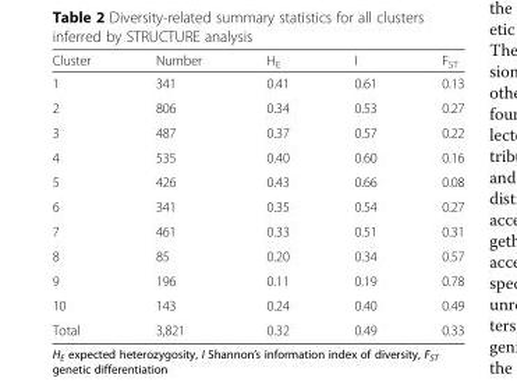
<table><thead><tr><td>Cluster</td><td>Number</td><td>H<sub>E</sub></td><td>I</td><td>F<sub>ST</sub></td></tr></thead><tbody><tr><td>1</td><td>341</td><td>0.41</td><td>0.61</td><td>0.13</td></tr><tr><td>2</td><td>806</td><td>0.34</td><td>0.53</td><td>0.27</td></tr><tr><td>3</td><td>487</td><td>0.37</td><td>0.57</td><td>0.22</td></tr><tr><td>4</td><td>535</td><td>0.40</td><td>0.60</td><td>0.16</td></tr><tr><td>5</td><td>426</td><td>0.43</td><td>0.66</td><td>0.08</td></tr><tr><td>6</td><td>341</td><td>0.35</td><td>0.54</td><td>0.27</td></tr><tr><td>7</td><td>461</td><td>0.33</td><td>0.51</td><td>0.31</td></tr><tr><td>8</td><td>85</td><td>0.20</td><td>0.34</td><td>0.57</td></tr><tr><td>9</td><td>196</td><td>0.11</td><td>0.19</td><td>0.78</td></tr><tr><td>10</td><td>143</td><td>0.24</td><td>0.40</td><td>0.49</td></tr><tr><td>Total</td><td>3,821</td><td>0.32</td><td>0.49</td><td>0.33</td></tr></tbody></table>